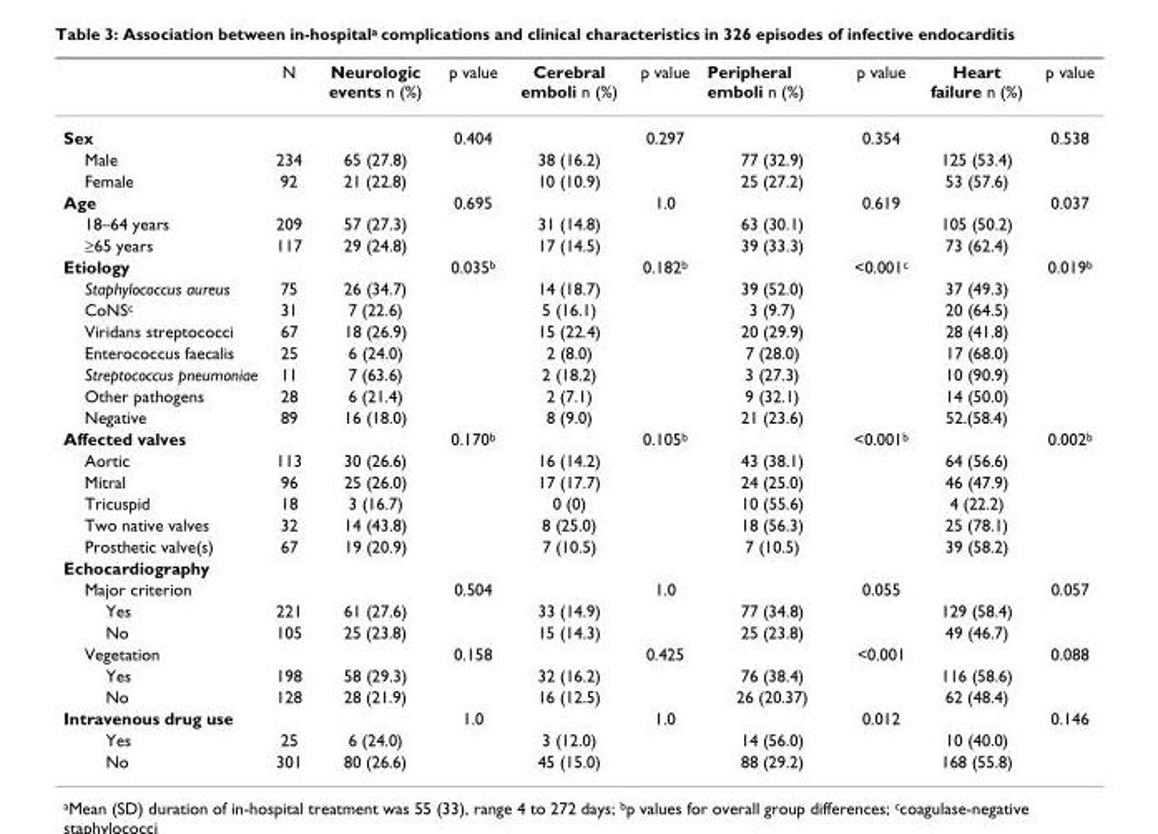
<table><thead><tr><td></td><td>N</td><td>Neurologic events n (%)</td><td>p value</td><td>Cerebral emboli n (%)</td><td>p value</td><td>Peripheral emboli n (%)</td><td>p value</td><td>Heart failure n (%)</td><td>p value</td></tr></thead><tbody><tr><td>Sex</td><td></td><td></td><td>0.404</td><td></td><td>0.297</td><td></td><td>0.354</td><td></td><td>0.538</td></tr><tr><td>Male</td><td>234</td><td>65 (27.8)</td><td></td><td>38 (16.2)</td><td></td><td>77 (32.9)</td><td></td><td>125 (53.4)</td><td></td></tr><tr><td>Female</td><td>92</td><td>21 (22.8)</td><td></td><td>10 (10.9)</td><td></td><td>25 (27.2)</td><td></td><td>53 (57.6)</td><td></td></tr><tr><td>Age</td><td></td><td></td><td>0.695</td><td></td><td>1.0</td><td></td><td>0.619</td><td></td><td>0.037</td></tr><tr><td>18–64 years</td><td>209</td><td>57 (27.3)</td><td></td><td>31 (14.8)</td><td></td><td>63 (30.1)</td><td></td><td>105 (50.2)</td><td></td></tr><tr><td>≥65 years</td><td>117</td><td>29 (24.8)</td><td></td><td>17 (14.5)</td><td></td><td>39 (33.3)</td><td></td><td>73 (62.4)</td><td></td></tr><tr><td>Etiology</td><td></td><td></td><td>0.035<sup>b</sup></td><td></td><td>0.182<sup>b</sup></td><td></td><td>&lt;0.001<sup>c</sup></td><td></td><td>0.019<sup>b</sup></td></tr><tr><td>Staphylococcus aureus</td><td>75</td><td>26 (34.7)</td><td></td><td>14 (18.7)</td><td></td><td>39 (52.0)</td><td></td><td>37 (49.3)</td><td></td></tr><tr><td>CoNS<sup>c</sup></td><td>31</td><td>7 (22.6)</td><td></td><td>5 (16.1)</td><td></td><td>3 (9.7)</td><td></td><td>20 (64.5)</td><td></td></tr><tr><td>Viridans streptococci</td><td>67</td><td>18 (26.9)</td><td></td><td>15 (22.4)</td><td></td><td>20 (29.9)</td><td></td><td>28 (41.8)</td><td></td></tr><tr><td>Enterococcus faecalis</td><td>25</td><td>6 (24.0)</td><td></td><td>2 (8.0)</td><td></td><td>7 (28.0)</td><td></td><td>17 (68.0)</td><td></td></tr><tr><td>Streptococcus pneumoniae</td><td>11</td><td>7 (63.6)</td><td></td><td>2 (18.2)</td><td></td><td>3 (27.3)</td><td></td><td>10 (90.9)</td><td></td></tr><tr><td>Other pathogens</td><td>28</td><td>6 (21.4)</td><td></td><td>2 (7.1)</td><td></td><td>9 (32.1)</td><td></td><td>14 (50.0)</td><td></td></tr><tr><td>Negative</td><td>89</td><td>16 (18.0)</td><td></td><td>8 (9.0)</td><td></td><td>21 (23.6)</td><td></td><td>52.(58.4)</td><td></td></tr><tr><td>Affected valves</td><td></td><td></td><td>0.170<sup>b</sup></td><td></td><td>0.105<sup>b</sup></td><td></td><td>&lt;0.001<sup>b</sup></td><td></td><td>0.002<sup>b</sup></td></tr><tr><td>Aortic</td><td>113</td><td>30 (26.6)</td><td></td><td>16 (14.2)</td><td></td><td>43 (38.1)</td><td></td><td>64 (56.6)</td><td></td></tr><tr><td>Mitral</td><td>96</td><td>25 (26.0)</td><td></td><td>17 (17.7)</td><td></td><td>24 (25.0)</td><td></td><td>46 (47.9)</td><td></td></tr><tr><td>Tricuspid</td><td>18</td><td>3 (16.7)</td><td></td><td>0 (0)</td><td></td><td>10 (55.6)</td><td></td><td>4 (22.2)</td><td></td></tr><tr><td>Two native valves</td><td>32</td><td>14 (43.8)</td><td></td><td>8 (25.0)</td><td></td><td>18 (56.3)</td><td></td><td>25 (78.1)</td><td></td></tr><tr><td>Prosthetic valve(s)</td><td>67</td><td>19 (20.9)</td><td></td><td>7 (10.5)</td><td></td><td>7 (10.5)</td><td></td><td>39 (58.2)</td><td></td></tr><tr><td colspan="10">Echocardiography</td></tr><tr><td>Major criterion</td><td></td><td></td><td>0.504</td><td></td><td>1.0</td><td></td><td>0.055</td><td></td><td>0.057</td></tr><tr><td>Yes</td><td>221</td><td>61 (27.6)</td><td></td><td>33 (14.9)</td><td></td><td>77 (34.8)</td><td></td><td>129 (58.4)</td><td></td></tr><tr><td>No</td><td>105</td><td>25 (23.8)</td><td></td><td>15 (14.3)</td><td></td><td>25 (23.8)</td><td></td><td>49 (46.7)</td><td></td></tr><tr><td>Vegetation</td><td></td><td></td><td>0.158</td><td></td><td>0.425</td><td></td><td>&lt;0.001</td><td></td><td>0.088</td></tr><tr><td>Yes</td><td>198</td><td>58 (29.3)</td><td></td><td>32 (16.2)</td><td></td><td>76 (38.4)</td><td></td><td>116 (58.6)</td><td></td></tr><tr><td>No</td><td>128</td><td>28 (21.9)</td><td></td><td>16 (12.5)</td><td></td><td>26 (20.37)</td><td></td><td>62 (48.4)</td><td></td></tr><tr><td>Intravenous drug use</td><td></td><td></td><td>1.0</td><td></td><td>1.0</td><td></td><td>0.012</td><td></td><td>0.146</td></tr><tr><td>Yes</td><td>25</td><td>6 (24.0)</td><td></td><td>3 (12.0)</td><td></td><td>14 (56.0)</td><td></td><td>10 (40.0)</td><td></td></tr><tr><td>No</td><td>301</td><td>80 (26.6)</td><td></td><td>45 (15.0)</td><td></td><td>88 (29.2)</td><td></td><td>168 (55.8)</td><td></td></tr></tbody></table>